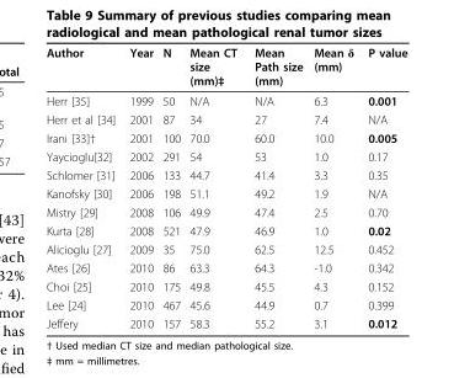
<table><thead><tr><td>Author</td><td>Year</td><td>N</td><td>Mean CT size (mm)‡</td><td>Mean Path size (mm)</td><td>Mean δ (mm)</td><td>P value</td></tr></thead><tbody><tr><td>Herr [35]</td><td>1999</td><td>50</td><td>N/A</td><td>N/A</td><td>6.3</td><td>0.001</td></tr><tr><td>Herr et al [34]</td><td>2001</td><td>87</td><td>34</td><td>27</td><td>7.4</td><td>N/A</td></tr><tr><td>Irani [33]†</td><td>2001</td><td>100</td><td>70.0</td><td>60.0</td><td>10.0</td><td>0.005</td></tr><tr><td>Yaycioglu[32]</td><td>2002</td><td>291</td><td>54</td><td>53</td><td>1.0</td><td>0.17</td></tr><tr><td>Schlomer [31]</td><td>2006</td><td>133</td><td>44.7</td><td>41.4</td><td>3.3</td><td>0.35</td></tr><tr><td>Kanofsky [30]</td><td>2006</td><td>198</td><td>51.1</td><td>49.2</td><td>1.9</td><td>N/A</td></tr><tr><td>Mistry [29]</td><td>2008</td><td>106</td><td>49.9</td><td>47.4</td><td>2.5</td><td>0.70</td></tr><tr><td>Kurta [28]</td><td>2008</td><td>521</td><td>47.9</td><td>46.9</td><td>1.0</td><td>0.02</td></tr><tr><td>Alicioglu [27]</td><td>2009</td><td>35</td><td>75.0</td><td>62.5</td><td>12.5</td><td>0.452</td></tr><tr><td>Ates [26]</td><td>2010</td><td>86</td><td>63.3</td><td>64.3</td><td>-1.0</td><td>0.342</td></tr><tr><td>Choi [25]</td><td>2010</td><td>175</td><td>49.8</td><td>45.5</td><td>4.3</td><td>0.152</td></tr><tr><td>Lee [24]</td><td>2010</td><td>467</td><td>45.6</td><td>44.9</td><td>0.7</td><td>0.399</td></tr><tr><td>Jeffery</td><td>2010</td><td>157</td><td>58.3</td><td>55.2</td><td>3.1</td><td>0.012</td></tr></tbody></table>